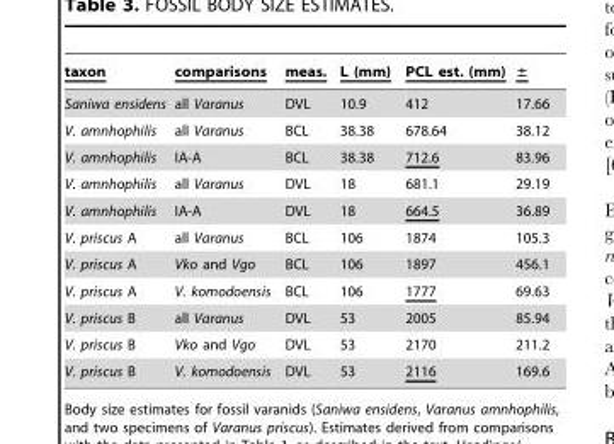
<table><thead><tr><td>taxon</td><td>comparisons</td><td>meas.</td><td>L (mm)</td><td>PCL est. (mm)</td><td>±</td></tr></thead><tbody><tr><td>Saniwa ensidens</td><td>all Varanus</td><td>DVL</td><td>10.9</td><td>412</td><td>17.66</td></tr><tr><td>V. amnhophilis</td><td>all Varanus</td><td>BCL</td><td>38.38</td><td>678.64</td><td>38.12</td></tr><tr><td>V. amnhophilis</td><td>IA-A</td><td>BCL</td><td>38.38</td><td>712.6</td><td>83.96</td></tr><tr><td>V. amnhophilis</td><td>all Varanus</td><td>DVL</td><td>18</td><td>681.1</td><td>29.19</td></tr><tr><td>V. amnhophilis</td><td>IA-A</td><td>DVL</td><td>18</td><td>664.5</td><td>36.89</td></tr><tr><td>V. priscus A</td><td>all Varanus</td><td>BCL</td><td>106</td><td>1874</td><td>105.3</td></tr><tr><td>V. priscus A</td><td>Vko and Vgo</td><td>BCL</td><td>106</td><td>1897</td><td>456.1</td></tr><tr><td>V. priscus A</td><td>V. komodoensis</td><td>BCL</td><td>106</td><td>1777</td><td>69.63</td></tr><tr><td>V. priscus B</td><td>all Varanus</td><td>DVL</td><td>53</td><td>2005</td><td>85.94</td></tr><tr><td>V. priscus B</td><td>Vko and Vgo</td><td>DVL</td><td>53</td><td>2170</td><td>211.2</td></tr><tr><td>V. priscus B</td><td>V. komodoensis</td><td>DVL</td><td>53</td><td>2116</td><td>169.6</td></tr></tbody></table>